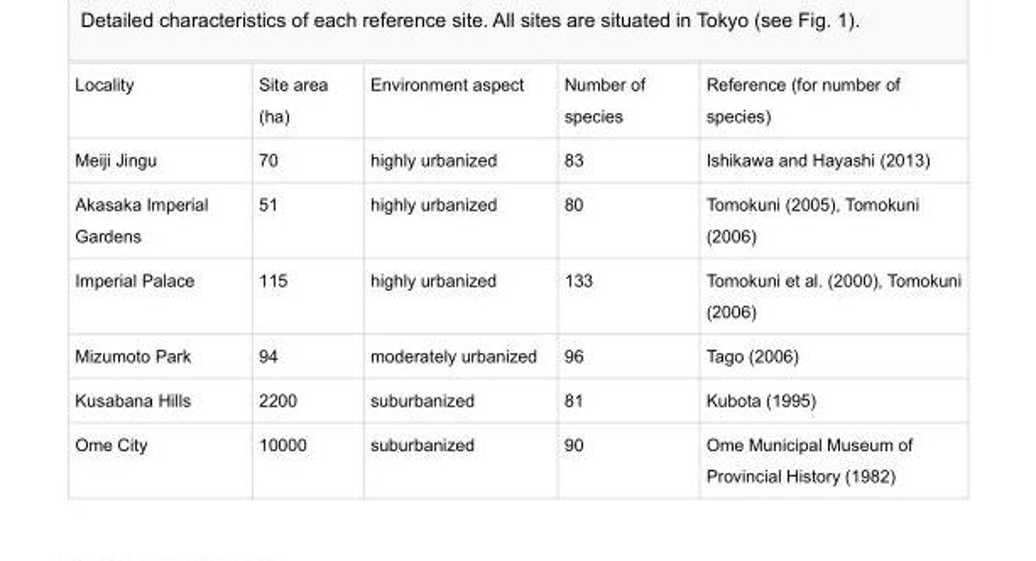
<table><tbody><tr><td>Locality</td><td>Site area (ha)</td><td>Environment aspect</td><td>Number of species</td><td>Reference (for number of species)</td></tr><tr><td>Meiji Jingu</td><td>70</td><td>highly urbanized</td><td>83</td><td>Ishikawa and Hayashi (2013)</td></tr><tr><td>Akasaka Imperial Gardens</td><td>51</td><td>highly urbanized</td><td>80</td><td>Tomokuni (2005), Tomokuni (2006)</td></tr><tr><td>Imperial Palace</td><td>115</td><td>highly urbanized</td><td>133</td><td>Tomokuni et al. (2000), Tomokuni (2006)</td></tr><tr><td>Mizumoto Park</td><td>94</td><td>moderately urbanized</td><td>96</td><td>Tago (2006)</td></tr><tr><td>Kusabana Hills</td><td>2200</td><td>suburbanized</td><td>81</td><td>Kubota (1995)</td></tr><tr><td>Ome City</td><td>10000</td><td>suburbanized</td><td>90</td><td>Ome Municipal Museum of Provincial History (1982)</td></tr></tbody></table>